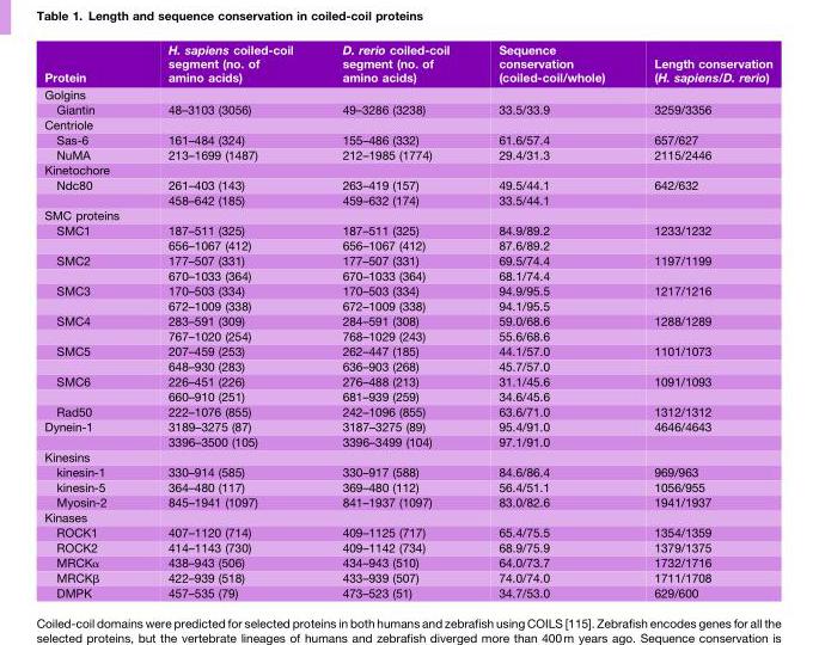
<table><thead><tr><td>Protein</td><td>H. sapiens coiled-coil segment (no. of amino acids)</td><td>D. rerio coiled-coil segment (no. of amino acids)</td><td>Sequence conservation (coiled-coil/whole)</td><td>Length conservation (H. sapiens/D. rerio)</td></tr></thead><tbody><tr><td colspan="5">Golgins</td></tr><tr><td>Giantin</td><td>48–3103 (3056)</td><td>49–3286 (3238)</td><td>33.5/33.9</td><td>3259/3356</td></tr><tr><td colspan="5">Centriole</td></tr><tr><td>Sas-6</td><td>161–484 (324)</td><td>155–486 (332)</td><td>61.6/57.4</td><td>657/627</td></tr><tr><td>NuMA</td><td>213–1699 (1487)</td><td>212–1985 (1774)</td><td>29.4/31.3</td><td>2115/2446</td></tr><tr><td colspan="5">Kinetochore</td></tr><tr><td rowspan="2">Ndc80</td><td>261–403 (143)</td><td>263–419 (157)</td><td>49.5/44.1</td><td>642/632</td></tr><tr><td>458–642 (185)</td><td>459–632 (174)</td><td>33.5/44.1</td><td></td></tr><tr><td colspan="5">SMC proteins</td></tr><tr><td rowspan="2">SMC1</td><td>187–511 (325)</td><td>187–511 (325)</td><td>84.9/89.2</td><td>1233/1232</td></tr><tr><td>656–1067 (412)</td><td>656–1067 (412)</td><td>87.6/89.2</td><td></td></tr><tr><td rowspan="2">SMC2</td><td>177–507 (331)</td><td>177–507 (331)</td><td>69.5/74.4</td><td>1197/1199</td></tr><tr><td>670–1033 (364)</td><td>670–1033 (364)</td><td>68.1/74.4</td><td></td></tr><tr><td rowspan="2">SMC3</td><td>170–503 (334)</td><td>170–503 (334)</td><td>94.9/95.5</td><td>1217/1216</td></tr><tr><td>672–1009 (338)</td><td>672–1009 (338)</td><td>94.1/95.5</td><td></td></tr><tr><td rowspan="2">SMC4</td><td>283–591 (309)</td><td>284–591 (308)</td><td>59.0/68.6</td><td>1288/1289</td></tr><tr><td>767–1020 (254)</td><td>768–1029 (243)</td><td>55.6/68.6</td><td></td></tr><tr><td rowspan="2">SMC5</td><td>207–459 (253)</td><td>262–447 (185)</td><td>44.1/57.0</td><td>1101/1073</td></tr><tr><td>648–930 (283)</td><td>636–903 (268)</td><td>45.7/57.0</td><td></td></tr><tr><td rowspan="2">SMC6</td><td>226–451 (226)</td><td>276–488 (213)</td><td>31.1/45.6</td><td>1091/1093</td></tr><tr><td>660–910 (251)</td><td>681–939 (259)</td><td>34.6/45.6</td><td></td></tr><tr><td>Rad50</td><td>222–1076 (855)</td><td>242–1096 (855)</td><td>63.6/71.0</td><td>1312/1312</td></tr><tr><td rowspan="2">Dynein-1</td><td>3189–3275 (87)</td><td>3187–3275 (89)</td><td>95.4/91.0</td><td>4646/4643</td></tr><tr><td>3396–3500 (105)</td><td>3396–3499 (104)</td><td>97.1/91.0</td><td></td></tr><tr><td colspan="5">Kinesins</td></tr><tr><td>kinesin-1</td><td>330–914 (585)</td><td>330–917 (588)</td><td>84.6/86.4</td><td>969/963</td></tr><tr><td>kinesin-5</td><td>364–480 (117)</td><td>369–480 (112)</td><td>56.4/51.1</td><td>1056/955</td></tr><tr><td>Myosin-2</td><td>845–1941 (1097)</td><td>841–1937 (1097)</td><td>83.0/82.6</td><td>1941/1937</td></tr><tr><td colspan="5">Kinases</td></tr><tr><td>ROCK1</td><td>407–1120 (714)</td><td>409–1125 (717)</td><td>65.4/75.5</td><td>1354/1359</td></tr><tr><td>ROCK2</td><td>414–1143 (730)</td><td>409–1142 (734)</td><td>68.9/75.9</td><td>1379/1375</td></tr><tr><td>MRCKα</td><td>438–943 (506)</td><td>434–943 (510)</td><td>64.0/73.7</td><td>1732/1716</td></tr><tr><td>MRCKβ</td><td>422–939 (518)</td><td>433–939 (507)</td><td>74.0/74.0</td><td>1711/1708</td></tr><tr><td>DMPK</td><td>457–535 (79)</td><td>473–523 (51)</td><td>34.7/53.0</td><td>629/600</td></tr></tbody></table>